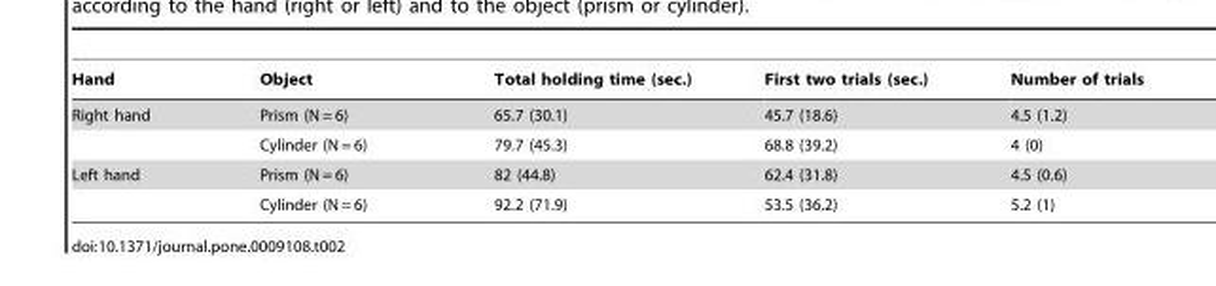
<table><thead><tr><td>Hand</td><td>Object</td><td>Total holding time (sec.)</td><td>First two trials (sec.)</td><td>Number of trials</td></tr></thead><tbody><tr><td rowspan="2">Right hand</td><td>Prism (N = 6)</td><td>65.7 (30.1)</td><td>45.7 (18.6)</td><td>4.5 (1.2)</td></tr><tr><td>Cylinder (N = 6)</td><td>79.7 (45.3)</td><td>68.8 (39.2)</td><td>4 (0)</td></tr><tr><td rowspan="2">Left hand</td><td>Prism (N = 6)</td><td>82 (44.8)</td><td>62.4 (31.8)</td><td>4.5 (0.6)</td></tr><tr><td>Cylinder (N = 6)</td><td>92.2 (71.9)</td><td>53.5 (36.2)</td><td>5.2 (1)</td></tr></tbody></table>